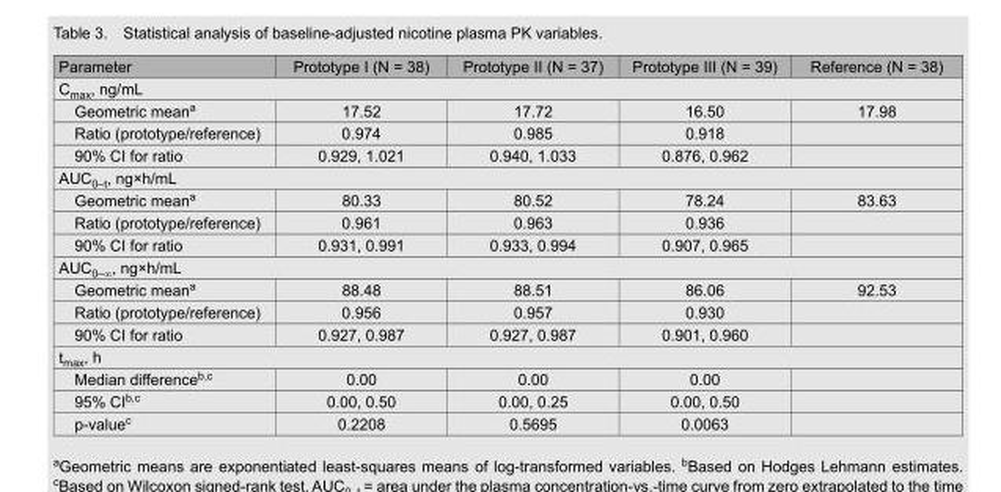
<table><thead><tr><td>Parameter</td><td>Prototype I (N = 38)</td><td>Prototype II (N = 37)</td><td>Prototype III (N = 39)</td><td>Reference (N = 38)</td></tr></thead><tbody><tr><td colspan="5">C<sub>max</sub>, ng/mL</td></tr><tr><td>Geometric mean<sup>a</sup></td><td>17.52</td><td>17.72</td><td>16.50</td><td>17.98</td></tr><tr><td>Ratio (prototype/reference)</td><td>0.974</td><td>0.985</td><td>0.918</td><td></td></tr><tr><td>90% CI for ratio</td><td>0.929, 1.021</td><td>0.940, 1.033</td><td>0.876, 0.962</td><td></td></tr><tr><td colspan="5">AUC<sub>0–t</sub>, ng×h/mL</td></tr><tr><td>Geometric mean<sup>a</sup></td><td>80.33</td><td>80.52</td><td>78.24</td><td>83.63</td></tr><tr><td>Ratio (prototype/reference)</td><td>0.961</td><td>0.963</td><td>0.936</td><td></td></tr><tr><td>90% CI for ratio</td><td>0.931, 0.991</td><td>0.933, 0.994</td><td>0.907, 0.965</td><td></td></tr><tr><td colspan="5">AUC<sub>0–∞</sub>, ng×h/mL</td></tr><tr><td>Geometric mean<sup>a</sup></td><td>88.48</td><td>88.51</td><td>86.06</td><td>92.53</td></tr><tr><td>Ratio (prototype/reference)</td><td>0.956</td><td>0.957</td><td>0.930</td><td></td></tr><tr><td>90% CI for ratio</td><td>0.927, 0.987</td><td>0.927, 0.987</td><td>0.901, 0.960</td><td></td></tr><tr><td colspan="5">t<sub>max</sub>, h</td></tr><tr><td>Median difference<sup>b,c</sup></td><td>0.00</td><td>0.00</td><td>0.00</td><td></td></tr><tr><td>95% CI<sup>b,c</sup></td><td>0.00, 0.50</td><td>0.00, 0.25</td><td>0.00, 0.50</td><td></td></tr><tr><td>p-value<sup>c</sup></td><td>0.2208</td><td>0.5695</td><td>0.0063</td><td></td></tr></tbody></table>